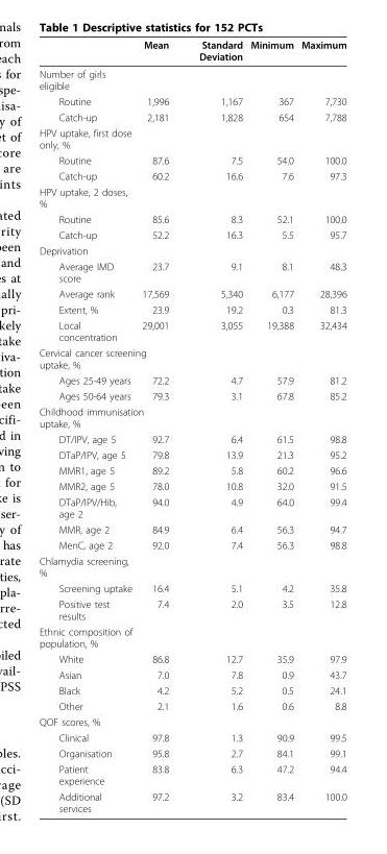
<table><thead><tr><td></td><td>Mean</td><td>Standard Deviation</td><td>Minimum</td><td>Maximum</td></tr></thead><tbody><tr><td colspan="5">Number of girls eligible</td></tr><tr><td>Routine</td><td>1,996</td><td>1,167</td><td>367</td><td>7,730</td></tr><tr><td>Catch-up</td><td>2,181</td><td>1,828</td><td>654</td><td>7,788</td></tr><tr><td colspan="5">HPV uptake, first dose only, %</td></tr><tr><td>Routine</td><td>87.6</td><td>7.5</td><td>54.0</td><td>100.0</td></tr><tr><td>Catch-up</td><td>60.2</td><td>16.6</td><td>7.6</td><td>97.3</td></tr><tr><td colspan="5">HPV uptake, 2 doses, %</td></tr><tr><td>Routine</td><td>85.6</td><td>8.3</td><td>52.1</td><td>100.0</td></tr><tr><td>Catch-up</td><td>52.2</td><td>16.3</td><td>5.5</td><td>95.7</td></tr><tr><td colspan="5">Deprivation</td></tr><tr><td>Average IMD score</td><td>23.7</td><td>9.1</td><td>8.1</td><td>48.3</td></tr><tr><td>Average rank</td><td>17,569</td><td>5,340</td><td>6,177</td><td>28,396</td></tr><tr><td>Extent, %</td><td>23.9</td><td>19.2</td><td>0.3</td><td>81.3</td></tr><tr><td>Local concentration</td><td>29,001</td><td>3,055</td><td>19,388</td><td>32,434</td></tr><tr><td colspan="5">Cervical cancer screening uptake, %</td></tr><tr><td>Ages 25-49 years</td><td>72.2</td><td>4.7</td><td>57.9</td><td>81.2</td></tr><tr><td>Ages 50-64 years</td><td>79.3</td><td>3.1</td><td>67.8</td><td>85.2</td></tr><tr><td colspan="5">Childhood immunisation uptake, %</td></tr><tr><td>DT/IPV, age 5</td><td>92.7</td><td>6.4</td><td>61.5</td><td>98.8</td></tr><tr><td>DTaP/IPV, age 5</td><td>79.8</td><td>13.9</td><td>21.3</td><td>95.2</td></tr><tr><td>MMR1, age 5</td><td>89.2</td><td>5.8</td><td>60.2</td><td>96.6</td></tr><tr><td>MMR2, age 5</td><td>78.0</td><td>10.8</td><td>32.0</td><td>91.5</td></tr><tr><td>DTaP/IPV/Hib, age 2</td><td>94.0</td><td>4.9</td><td>64.0</td><td>99.4</td></tr><tr><td>MMR, age 2</td><td>84.9</td><td>6.4</td><td>56.3</td><td>94.7</td></tr><tr><td>MenC, age 2</td><td>92.0</td><td>7.4</td><td>56.3</td><td>98.8</td></tr><tr><td colspan="5">Chlamydia screening, %</td></tr><tr><td>Screening uptake</td><td>16.4</td><td>5.1</td><td>4.2</td><td>35.8</td></tr><tr><td>Positive test results</td><td>7.4</td><td>2.0</td><td>3.5</td><td>12.8</td></tr><tr><td colspan="5">Ethnic composition of population, %</td></tr><tr><td>White</td><td>86.8</td><td>12.7</td><td>35.9</td><td>97.9</td></tr><tr><td>Asian</td><td>7.0</td><td>7.8</td><td>0.9</td><td>43.7</td></tr><tr><td>Black</td><td>4.2</td><td>5.2</td><td>0.5</td><td>24.1</td></tr><tr><td>Other</td><td>2.1</td><td>1.6</td><td>0.6</td><td>8.8</td></tr><tr><td colspan="5">QOF scores, %</td></tr><tr><td>Clinical</td><td>97.8</td><td>1.3</td><td>90.9</td><td>99.5</td></tr><tr><td>Organisation</td><td>95.8</td><td>2.7</td><td>84.1</td><td>99.1</td></tr><tr><td>Patient experience</td><td>83.8</td><td>6.3</td><td>47.2</td><td>94.4</td></tr><tr><td>Additional services</td><td>97.2</td><td>3.2</td><td>83.4</td><td>100.0</td></tr></tbody></table>